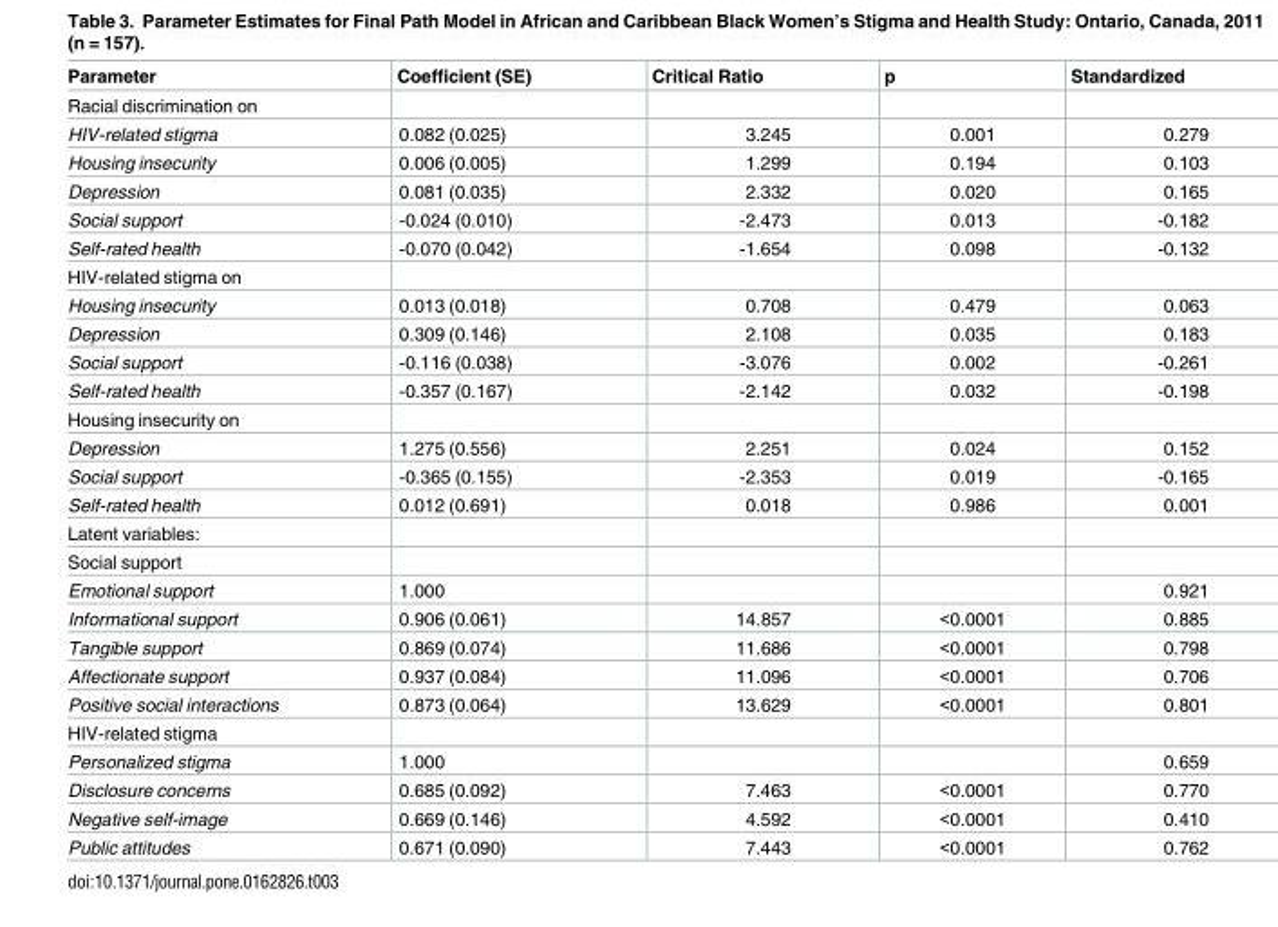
<table><thead><tr><td>Parameter</td><td>Coefficient (SE)</td><td>Critical Ratio</td><td>p</td><td>Standardized</td></tr></thead><tbody><tr><td colspan="5">Racial discrimination on</td></tr><tr><td>HIV-related stigma</td><td>0.082 (0.025)</td><td>3.245</td><td>0.001</td><td>0.279</td></tr><tr><td>Housing insecurity</td><td>0.006 (0.005)</td><td>1.299</td><td>0.194</td><td>0.103</td></tr><tr><td>Depression</td><td>0.081 (0.035)</td><td>2.332</td><td>0.020</td><td>0.165</td></tr><tr><td>Social support</td><td>-0.024 (0.010)</td><td>-2.473</td><td>0.013</td><td>-0.182</td></tr><tr><td>Self-rated health</td><td>-0.070 (0.042)</td><td>-1.654</td><td>0.098</td><td>-0.132</td></tr><tr><td colspan="5">HIV-related stigma on</td></tr><tr><td>Housing insecurity</td><td>0.013 (0.018)</td><td>0.708</td><td>0.479</td><td>0.063</td></tr><tr><td>Depression</td><td>0.309 (0.146)</td><td>2.108</td><td>0.035</td><td>0.183</td></tr><tr><td>Social support</td><td>-0.116 (0.038)</td><td>-3.076</td><td>0.002</td><td>-0.261</td></tr><tr><td>Self-rated health</td><td>-0.357 (0.167)</td><td>-2.142</td><td>0.032</td><td>-0.198</td></tr><tr><td colspan="5">Housing insecurity on</td></tr><tr><td>Depression</td><td>1.275 (0.556)</td><td>2.251</td><td>0.024</td><td>0.152</td></tr><tr><td>Social support</td><td>-0.365 (0.155)</td><td>-2.353</td><td>0.019</td><td>-0.165</td></tr><tr><td>Self-rated health</td><td>0.012 (0.691)</td><td>0.018</td><td>0.986</td><td>0.001</td></tr><tr><td colspan="5">Latent variables:</td></tr><tr><td colspan="5">Social support</td></tr><tr><td>Emotional support</td><td>1.000</td><td></td><td></td><td>0.921</td></tr><tr><td>Informational support</td><td>0.906 (0.061)</td><td>14.857</td><td>&lt;0.0001</td><td>0.885</td></tr><tr><td>Tangible support</td><td>0.869 (0.074)</td><td>11.686</td><td>&lt;0.0001</td><td>0.798</td></tr><tr><td>Affectionate support</td><td>0.937 (0.084)</td><td>11.096</td><td>&lt;0.0001</td><td>0.706</td></tr><tr><td>Positive social interactions</td><td>0.873 (0.064)</td><td>13.629</td><td>&lt;0.0001</td><td>0.801</td></tr><tr><td colspan="5">HIV-related stigma</td></tr><tr><td>Personalized stigma</td><td>1.000</td><td></td><td></td><td>0.659</td></tr><tr><td>Disclosure concerns</td><td>0.685 (0.092)</td><td>7.463</td><td>&lt;0.0001</td><td>0.770</td></tr><tr><td>Negative self-image</td><td>0.669 (0.146)</td><td>4.592</td><td>&lt;0.0001</td><td>0.410</td></tr><tr><td>Public attitudes</td><td>0.671 (0.090)</td><td>7.443</td><td>&lt;0.0001</td><td>0.762</td></tr></tbody></table>